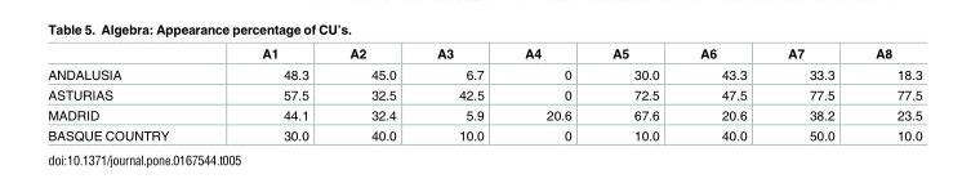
<table><thead><tr><td></td><td>A1</td><td>A2</td><td>A3</td><td>A4</td><td>A5</td><td>A6</td><td>A7</td><td>A8</td></tr></thead><tbody><tr><td>ANDALUSIA</td><td>48.3</td><td>45.0</td><td>6.7</td><td>0</td><td>30.0</td><td>43.3</td><td>33.3</td><td>18.3</td></tr><tr><td>ASTURIAS</td><td>57.5</td><td>32.5</td><td>42.5</td><td>0</td><td>72.5</td><td>47.5</td><td>77.5</td><td>77.5</td></tr><tr><td>MADRID</td><td>44.1</td><td>32.4</td><td>5.9</td><td>20.6</td><td>67.6</td><td>20.6</td><td>38.2</td><td>23.5</td></tr><tr><td>BASQUE COUNTRY</td><td>30.0</td><td>40.0</td><td>10.0</td><td>0</td><td>10.0</td><td>40.0</td><td>50.0</td><td>10.0</td></tr></tbody></table>